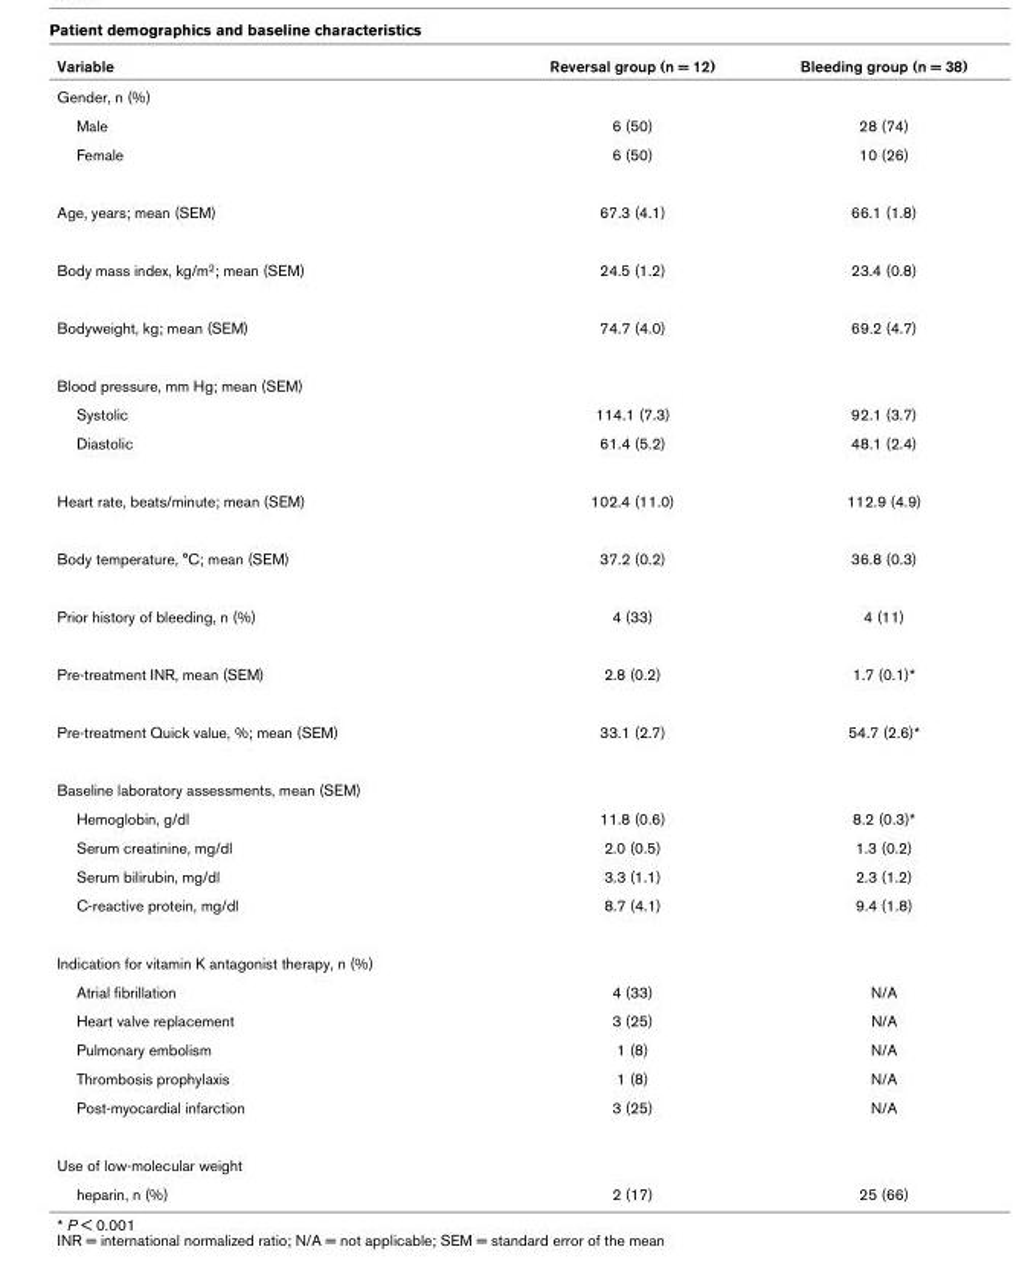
<table><thead><tr><td>Variable</td><td>Reversal group (n = 12)</td><td>Bleeding group (n = 38)</td></tr></thead><tbody><tr><td colspan="3">Gender, n (%)</td></tr><tr><td>Male</td><td>6 (50)</td><td>28 (74)</td></tr><tr><td>Female</td><td>6 (50)</td><td>10 (26)</td></tr><tr><td>Age, years; mean (SEM)</td><td>67.3 (4.1)</td><td>66.1 (1.8)</td></tr><tr><td>Body mass index, kg/m<sup>2</sup>; mean (SEM)</td><td>24.5 (1.2)</td><td>23.4 (0.8)</td></tr><tr><td>Bodyweight, kg; mean (SEM)</td><td>74.7 (4.0)</td><td>69.2 (4.7)</td></tr><tr><td colspan="3">Blood pressure, mm Hg; mean (SEM)</td></tr><tr><td>Systolic</td><td>114.1 (7.3)</td><td>92.1 (3.7)</td></tr><tr><td>Diastolic</td><td>61.4 (5.2)</td><td>48.1 (2.4)</td></tr><tr><td>Heart rate, beats/minute; mean (SEM)</td><td>102.4 (11.0)</td><td>112.9 (4.9)</td></tr><tr><td>Body temperature, °C; mean (SEM)</td><td>37.2 (0.2)</td><td>36.8 (0.3)</td></tr><tr><td>Prior history of bleeding, n (%)</td><td>4 (33)</td><td>4 (11)</td></tr><tr><td>Pre-treatment INR, mean (SEM)</td><td>2.8 (0.2)</td><td>1.7 (0.1)*</td></tr><tr><td>Pre-treatment Quick value, %; mean (SEM)</td><td>33.1 (2.7)</td><td>54.7 (2.6)*</td></tr><tr><td colspan="3">Baseline laboratory assessments, mean (SEM)</td></tr><tr><td>Hemoglobin, g/dl</td><td>11.8 (0.6)</td><td>8.2 (0.3)*</td></tr><tr><td>Serum creatinine, mg/dl</td><td>2.0 (0.5)</td><td>1.3 (0.2)</td></tr><tr><td>Serum bilirubin, mg/dl</td><td>3.3 (1.1)</td><td>2.3 (1.2)</td></tr><tr><td>C-reactive protein, mg/dl</td><td>8.7 (4.1)</td><td>9.4 (1.8)</td></tr><tr><td colspan="3">Indication for vitamin K antagonist therapy, n (%)</td></tr><tr><td>Atrial fibrillation</td><td>4 (33)</td><td>N/A</td></tr><tr><td>Heart valve replacement</td><td>3 (25)</td><td>N/A</td></tr><tr><td>Pulmonary embolism</td><td>1 (8)</td><td>N/A</td></tr><tr><td>Thrombosis prophylaxis</td><td>1 (8)</td><td>N/A</td></tr><tr><td>Post-myocardial infarction</td><td>3 (25)</td><td>N/A</td></tr><tr><td colspan="3">Use of low-molecular weight</td></tr><tr><td>heparin, n (%)</td><td>2 (17)</td><td>25 (66)</td></tr></tbody></table>